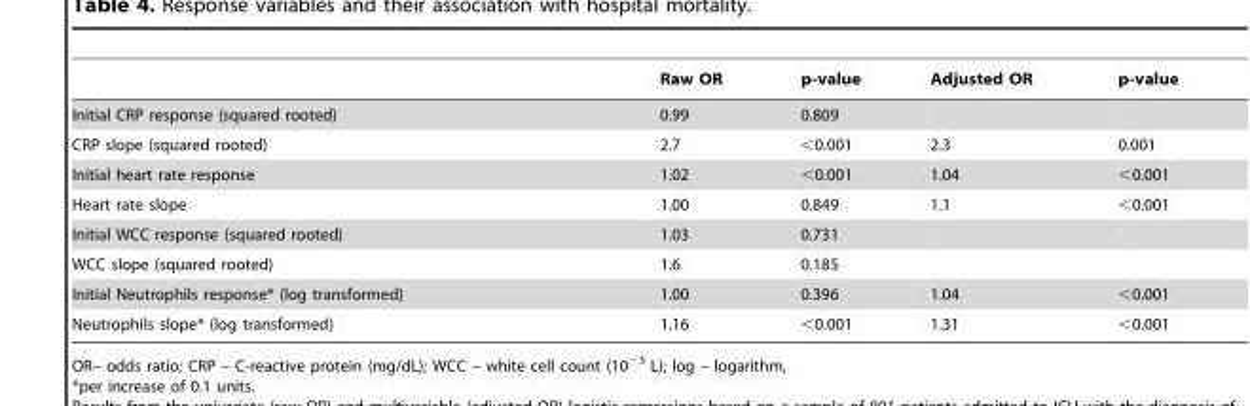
<table><thead><tr><td></td><td>Raw OR</td><td>p-value</td><td>Adjusted OR</td><td>p-value</td></tr></thead><tbody><tr><td>Initial CRP response (squared rooted)</td><td>0.99</td><td>0.809</td><td></td><td></td></tr><tr><td>CRP slope (squared rooted)</td><td>2.7</td><td>&lt;0.001</td><td>2.3</td><td>0.001</td></tr><tr><td>Initial heart rate response</td><td>1.02</td><td>&lt;0.001</td><td>1.04</td><td>&lt;0.001</td></tr><tr><td>Heart rate slope</td><td>1.00</td><td>0.849</td><td>1.1</td><td>&lt;0.001</td></tr><tr><td>Initial WCC response (squared rooted)</td><td>1.03</td><td>0.731</td><td></td><td></td></tr><tr><td>WCC slope (squared rooted)</td><td>1.6</td><td>0.185</td><td></td><td></td></tr><tr><td>Initial Neutrophils response* (log transformed)</td><td>1.00</td><td>0.396</td><td>1.04</td><td>&lt;0.001</td></tr><tr><td>Neutrophils slope* (log transformed)</td><td>1.16</td><td>&lt;0.001</td><td>1.31</td><td>&lt;0.001</td></tr></tbody></table>